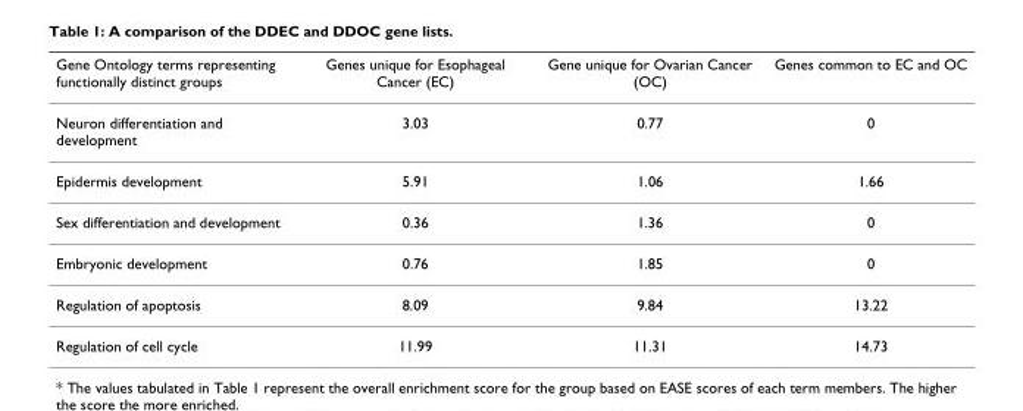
<table><thead><tr><td>Gene Ontology terms representing functionally distinct groups</td><td>Genes unique for Esophageal Cancer (EC)</td><td>Gene unique for Ovarian Cancer (OC)</td><td>Genes common to EC and OC</td></tr></thead><tbody><tr><td>Neuron differentiation and development</td><td>3.03</td><td>0.77</td><td>0</td></tr><tr><td>Epidermis development</td><td>5.91</td><td>1.06</td><td>1.66</td></tr><tr><td>Sex differentiation and development</td><td>0.36</td><td>1.36</td><td>0</td></tr><tr><td>Embryonic development</td><td>0.76</td><td>1.85</td><td>0</td></tr><tr><td>Regulation of apoptosis</td><td>8.09</td><td>9.84</td><td>13.22</td></tr><tr><td>Regulation of cell cycle</td><td>11.99</td><td>11.31</td><td>14.73</td></tr></tbody></table>